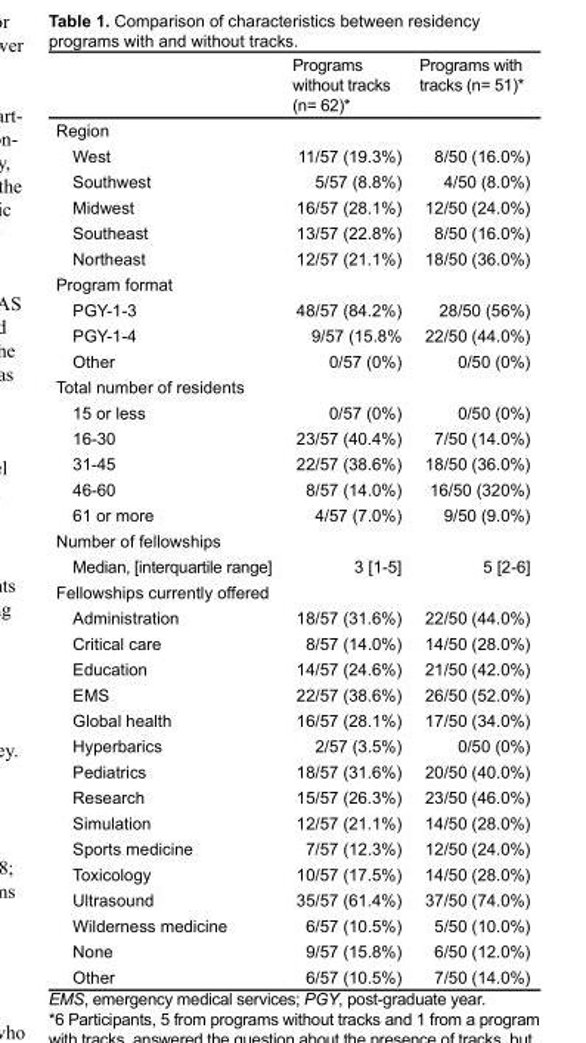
<table><thead><tr><td></td><td>Programs without tracks (n= 62)*</td><td>Programs with tracks (n= 51)*</td></tr></thead><tbody><tr><td colspan="3">Region</td></tr><tr><td>West</td><td>11/57 (19.3%)</td><td>8/50 (16.0%)</td></tr><tr><td>Southwest</td><td>5/57 (8.8%)</td><td>4/50 (8.0%)</td></tr><tr><td>Midwest</td><td>16/57 (28.1%)</td><td>12/50 (24.0%)</td></tr><tr><td>Southeast</td><td>13/57 (22.8%)</td><td>8/50 (16.0%)</td></tr><tr><td>Northeast</td><td>12/57 (21.1%)</td><td>18/50 (36.0%)</td></tr><tr><td colspan="3">Program format</td></tr><tr><td>PGY-1-3</td><td>48/57 (84.2%)</td><td>28/50 (56%)</td></tr><tr><td>PGY-1-4</td><td>9/57 (15.8%</td><td>22/50 (44.0%)</td></tr><tr><td>Other</td><td>0/57 (0%)</td><td>0/50 (0%)</td></tr><tr><td colspan="3">Total number of residents</td></tr><tr><td>15 or less</td><td>0/57 (0%)</td><td>0/50 (0%)</td></tr><tr><td>16-30</td><td>23/57 (40.4%)</td><td>7/50 (14.0%)</td></tr><tr><td>31-45</td><td>22/57 (38.6%)</td><td>18/50 (36.0%)</td></tr><tr><td>46-60</td><td>8/57 (14.0%)</td><td>16/50 (320%)</td></tr><tr><td>61 or more</td><td>4/57 (7.0%)</td><td>9/50 (9.0%)</td></tr><tr><td colspan="3">Number of fellowships</td></tr><tr><td>Median, [interquartile range]</td><td>3 [1-5]</td><td>5 [2-6]</td></tr><tr><td colspan="3">Fellowships currently offered</td></tr><tr><td>Administration</td><td>18/57 (31.6%)</td><td>22/50 (44.0%)</td></tr><tr><td>Critical care</td><td>8/57 (14.0%)</td><td>14/50 (28.0%)</td></tr><tr><td>Education</td><td>14/57 (24.6%)</td><td>21/50 (42.0%)</td></tr><tr><td>EMS</td><td>22/57 (38.6%)</td><td>26/50 (52.0%)</td></tr><tr><td>Global health</td><td>16/57 (28.1%)</td><td>17/50 (34.0%)</td></tr><tr><td>Hyperbarics</td><td>2/57 (3.5%)</td><td>0/50 (0%)</td></tr><tr><td>Pediatrics</td><td>18/57 (31.6%)</td><td>20/50 (40.0%)</td></tr><tr><td>Research</td><td>15/57 (26.3%)</td><td>23/50 (46.0%)</td></tr><tr><td>Simulation</td><td>12/57 (21.1%)</td><td>14/50 (28.0%)</td></tr><tr><td>Sports medicine</td><td>7/57 (12.3%)</td><td>12/50 (24.0%)</td></tr><tr><td>Toxicology</td><td>10/57 (17.5%)</td><td>14/50 (28.0%)</td></tr><tr><td>Ultrasound</td><td>35/57 (61.4%)</td><td>37/50 (74.0%)</td></tr><tr><td>Wilderness medicine</td><td>6/57 (10.5%)</td><td>5/50 (10.0%)</td></tr><tr><td>None</td><td>9/57 (15.8%)</td><td>6/50 (12.0%)</td></tr><tr><td>Other</td><td>6/57 (10.5%)</td><td>7/50 (14.0%)</td></tr></tbody></table>